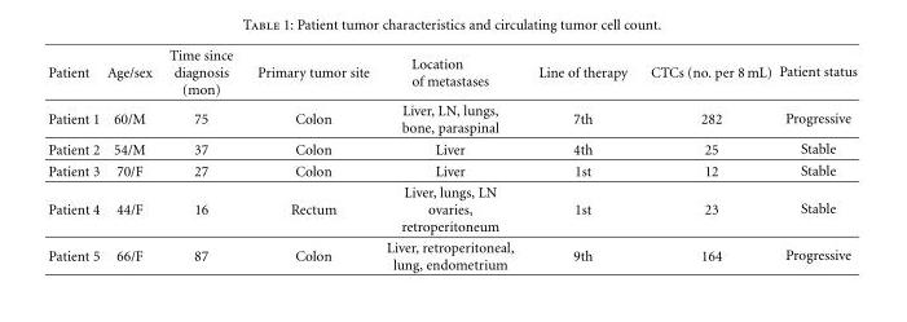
<table><thead><tr><td>Patient</td><td>Age/sex</td><td>Time since diagnosis (mon)</td><td>Primary tumor site</td><td>Location of metastases</td><td>Line of therapy</td><td>CTCs (no. per 8 mL)</td><td>Patient status</td></tr></thead><tbody><tr><td>Patient 1</td><td>60/M</td><td>75</td><td>Colon</td><td>Liver, LN, lungs, bone, paraspinal</td><td>7th</td><td>282</td><td>Progressive</td></tr><tr><td>Patient 2</td><td>54/M</td><td>37</td><td>Colon</td><td>Liver</td><td>4th</td><td>25</td><td>Stable</td></tr><tr><td>Patient 3</td><td>70/F</td><td>27</td><td>Colon</td><td>Liver</td><td>1st</td><td>12</td><td>Stable</td></tr><tr><td>Patient 4</td><td>44/F</td><td>16</td><td>Rectum</td><td>Liver, lungs, LN ovaries, retroperitoneum</td><td>1st</td><td>23</td><td>Stable</td></tr><tr><td>Patient 5</td><td>66/F</td><td>87</td><td>Colon</td><td>Liver, retroperitoneal, lung, endometrium</td><td>9th</td><td>164</td><td>Progressive</td></tr></tbody></table>